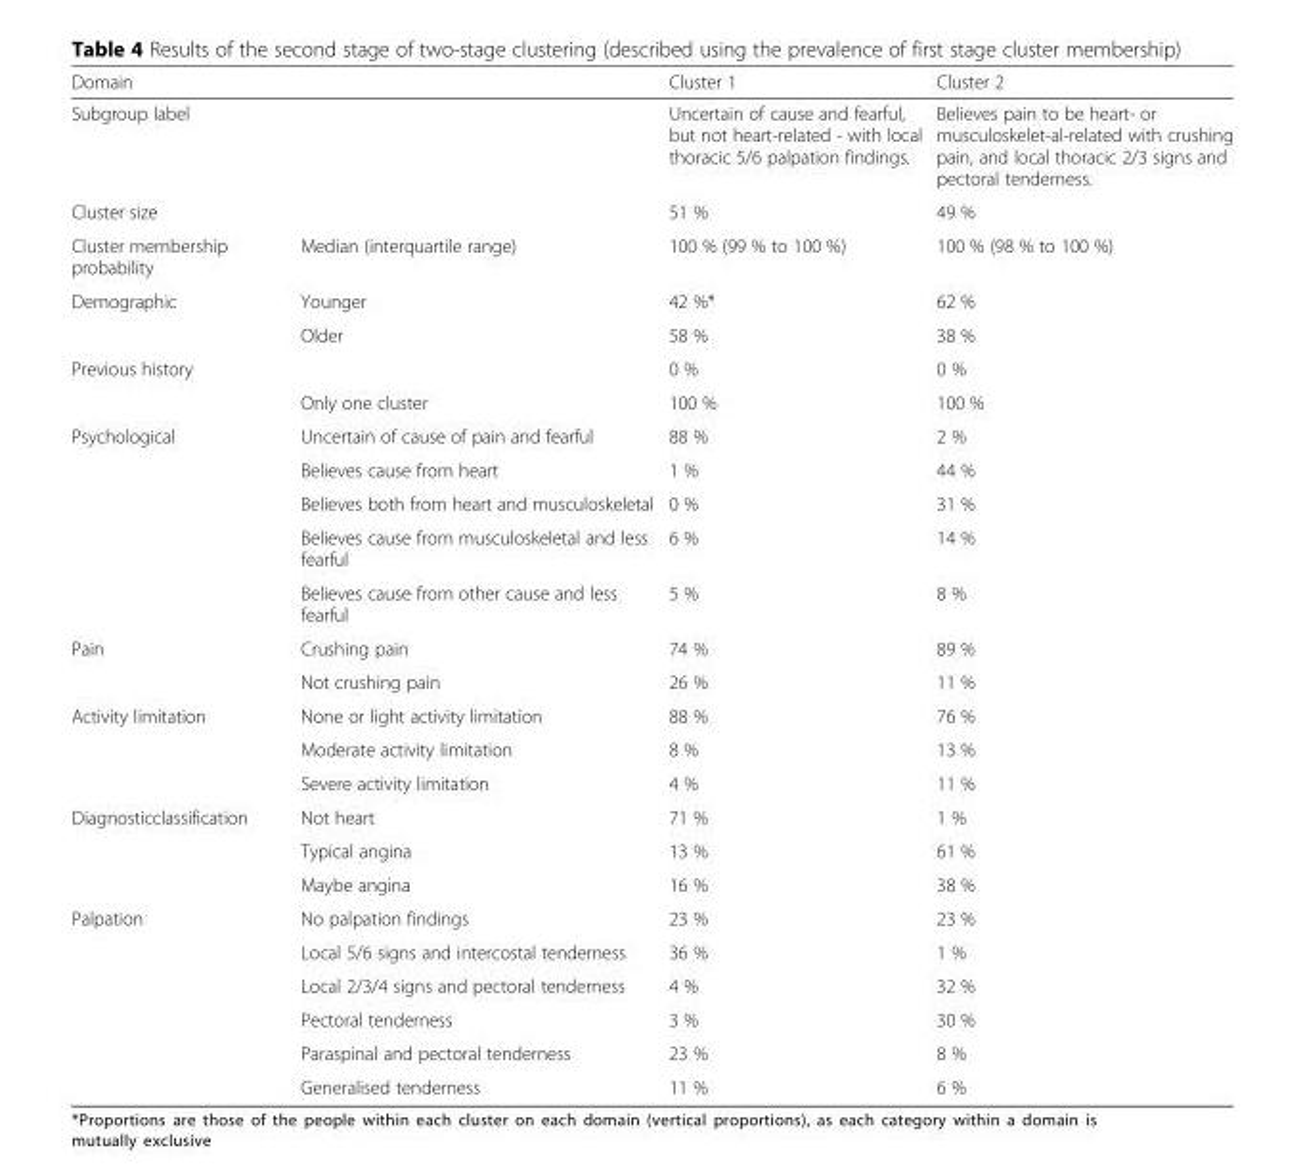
<table><thead><tr><td>Domain</td><td></td><td>Cluster 1</td><td>Cluster 2</td></tr></thead><tbody><tr><td>Subgroup label</td><td></td><td>Uncertain of cause and fearful, but not heart-related - with local thoracic 5/6 palpation findings.</td><td>Believes pain to be heart- or musculoskelet-al-related with crushing pain, and local thoracic 2/3 signs and pectoral tenderness.</td></tr><tr><td>Cluster size</td><td></td><td>51 %</td><td>49 %</td></tr><tr><td>Cluster membership probability</td><td>Median (interquartile range)</td><td>100 % (99 % to 100 %)</td><td>100 % (98 % to 100 %)</td></tr><tr><td rowspan="2">Demographic</td><td>Younger</td><td>42 %*</td><td>62 %</td></tr><tr><td>Older</td><td>58 %</td><td>38 %</td></tr><tr><td rowspan="2">Previous history</td><td></td><td>0 %</td><td>0 %</td></tr><tr><td>Only one cluster</td><td>100 %</td><td>100 %</td></tr><tr><td rowspan="5">Psychological</td><td>Uncertain of cause of pain and fearful</td><td>88 %</td><td>2 %</td></tr><tr><td>Believes cause from heart</td><td>1 %</td><td>44 %</td></tr><tr><td>Believes both from heart and musculoskeletal</td><td>0 %</td><td>31 %</td></tr><tr><td>Believes cause from musculoskeletal and less fearful</td><td>6 %</td><td>14 %</td></tr><tr><td>Believes cause from other cause and less fearful</td><td>5 %</td><td>8 %</td></tr><tr><td rowspan="2">Pain</td><td>Crushing pain</td><td>74 %</td><td>89 %</td></tr><tr><td>Not crushing pain</td><td>26 %</td><td>11 %</td></tr><tr><td rowspan="3">Activity limitation</td><td>None or light activity limitation</td><td>88 %</td><td>76 %</td></tr><tr><td>Moderate activity limitation</td><td>8 %</td><td>13 %</td></tr><tr><td>Severe activity limitation</td><td>4 %</td><td>11 %</td></tr><tr><td rowspan="3">Diagnosticclassification</td><td>Not heart</td><td>71 %</td><td>1 %</td></tr><tr><td>Typical angina</td><td>13 %</td><td>61 %</td></tr><tr><td>Maybe angina</td><td>16 %</td><td>38 %</td></tr><tr><td rowspan="6">Palpation</td><td>No palpation findings</td><td>23 %</td><td>23 %</td></tr><tr><td>Local 5/6 signs and intercostal tenderness</td><td>36 %</td><td>1 %</td></tr><tr><td>Local 2/3/4 signs and pectoral tenderness</td><td>4 %</td><td>32 %</td></tr><tr><td>Pectoral tenderness</td><td>3 %</td><td>30 %</td></tr><tr><td>Paraspinal and pectoral tenderness</td><td>23 %</td><td>8 %</td></tr><tr><td>Generalised tenderness</td><td>11 %</td><td>6 %</td></tr></tbody></table>